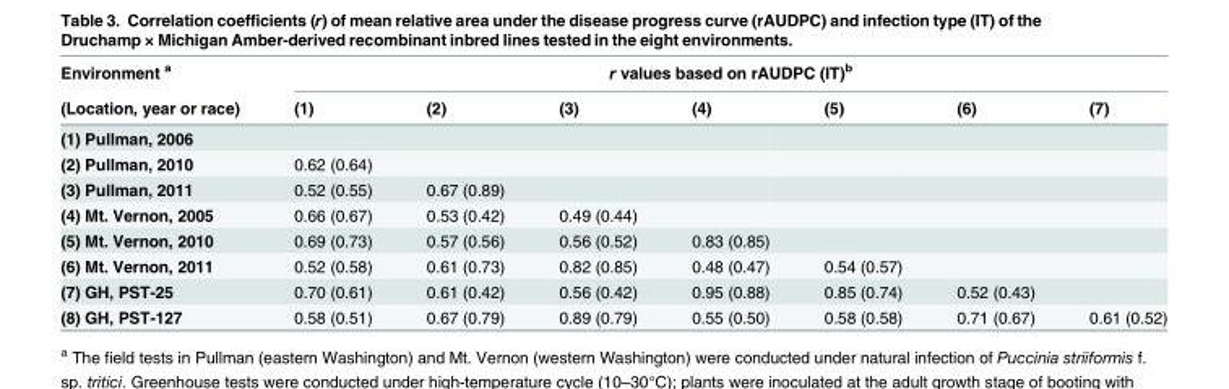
<table><thead><tr><td rowspan="2">Environment <sup>a</sup> (Location, year or race)</td><td colspan="7">r values based on rAUDPC (IT)<sup>b</sup></td></tr><tr><td>(1)</td><td>(2)</td><td>(3)</td><td>(4)</td><td>(5)</td><td>(6)</td><td>(7)</td></tr></thead><tbody><tr><td colspan="8">(1) Pullman, 2006</td></tr><tr><td>(2) Pullman, 2010</td><td>0.62 (0.64)</td><td></td><td></td><td></td><td></td><td></td><td></td></tr><tr><td>(3) Pullman, 2011</td><td>0.52 (0.55)</td><td>0.67 (0.89)</td><td></td><td></td><td></td><td></td><td></td></tr><tr><td>(4) Mt. Vernon, 2005</td><td>0.66 (0.67)</td><td>0.53 (0.42)</td><td>0.49 (0.44)</td><td></td><td></td><td></td><td></td></tr><tr><td>(5) Mt. Vernon, 2010</td><td>0.69 (0.73)</td><td>0.57 (0.56)</td><td>0.56 (0.52)</td><td>0.83 (0.85)</td><td></td><td></td><td></td></tr><tr><td>(6) Mt. Vernon, 2011</td><td>0.52 (0.58)</td><td>0.61 (0.73)</td><td>0.82 (0.85)</td><td>0.48 (0.47)</td><td>0.54 (0.57)</td><td></td><td></td></tr><tr><td>(7) GH, PST-25</td><td>0.70 (0.61)</td><td>0.61 (0.42)</td><td>0.56 (0.42)</td><td>0.95 (0.88)</td><td>0.85 (0.74)</td><td>0.52 (0.43)</td><td></td></tr><tr><td>(8) GH, PST-127</td><td>0.58 (0.51)</td><td>0.67 (0.79)</td><td>0.89 (0.79)</td><td>0.55 (0.50)</td><td>0.58 (0.58)</td><td>0.71 (0.67)</td><td>0.61 (0.52)</td></tr></tbody></table>